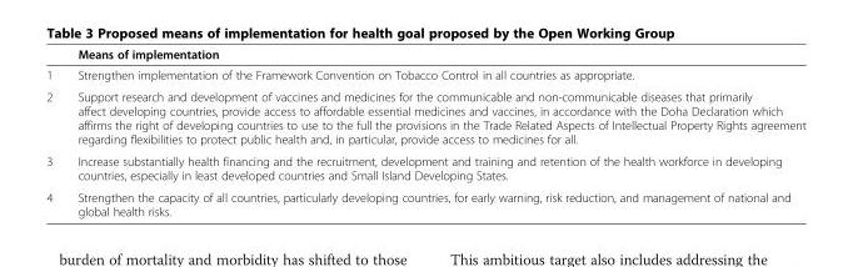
<table><thead><tr><td></td><td>Means of implementation</td></tr></thead><tbody><tr><td>1</td><td>Strengthen implementation of the Framework Convention on Tobacco Control in all countries as appropriate.</td></tr><tr><td>2</td><td>Support research and development of vaccines and medicines for the communicable and non-communicable diseases that primarily affect developing countries, provide access to affordable essential medicines and vaccines, in accordance with the Doha Declaration which affirms the right of developing countries to use to the full the provisions in the Trade Related Aspects of Intellectual Property Rights agreement regarding flexibilities to protect public health and, in particular, provide access to medicines for all.</td></tr><tr><td>3</td><td>Increase substantially health financing and the recruitment, development and training and retention of the health workforce in developing countries, especially in least developed countries and Small Island Developing States.</td></tr><tr><td>4</td><td>Strengthen the capacity of all countries, particularly developing countries, for early warning, risk reduction, and management of national and global health risks.</td></tr></tbody></table>